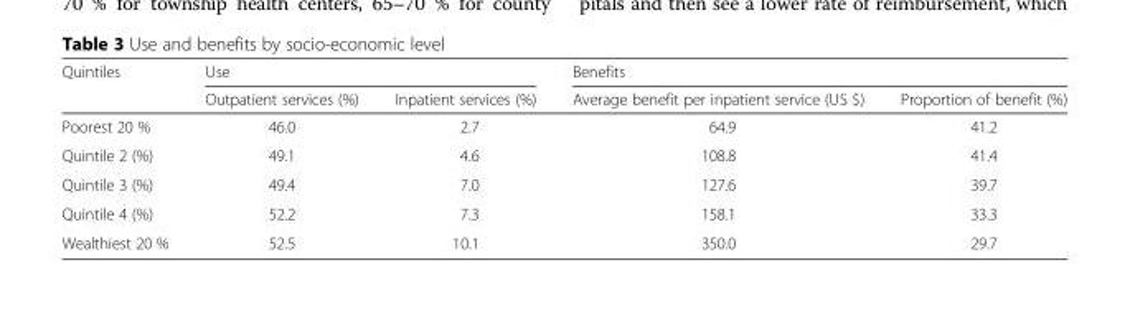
<table><thead><tr><td rowspan="2">Quintiles</td><td colspan="2">Use</td><td colspan="2">Benefits</td></tr><tr><td>Outpatient services (%)</td><td>Inpatient services (%)</td><td>Average benefit per inpatient service (US $)</td><td>Proportion of benefit (%)</td></tr></thead><tbody><tr><td>Poorest 20 %</td><td>46.0</td><td>2.7</td><td>64.9</td><td>41.2</td></tr><tr><td>Quintile 2 (%)</td><td>49.1</td><td>4.6</td><td>108.8</td><td>41.4</td></tr><tr><td>Quintile 3 (%)</td><td>49.4</td><td>7.0</td><td>127.6</td><td>39.7</td></tr><tr><td>Quintile 4 (%)</td><td>52.2</td><td>7.3</td><td>158.1</td><td>33.3</td></tr><tr><td>Wealthiest 20 %</td><td>52.5</td><td>10.1</td><td>350.0</td><td>29.7</td></tr></tbody></table>